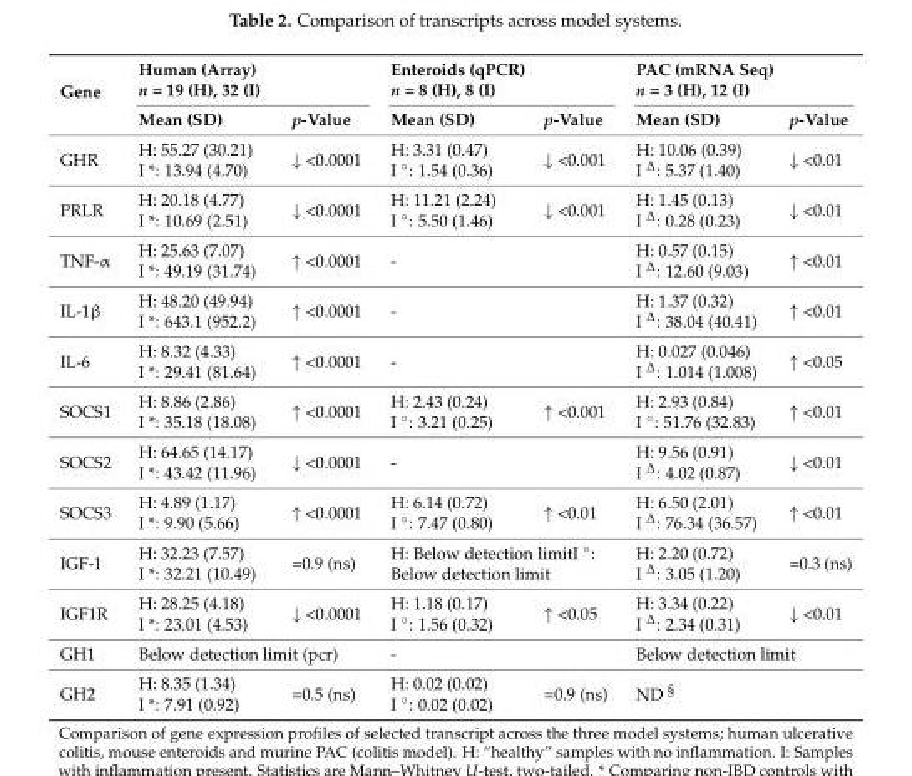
<table><thead><tr><td rowspan="2">Gene</td><td colspan="2">Human (Array) n = 19 (H), 32 (I)</td><td colspan="2">Enteroids (qPCR) n = 8 (H), 8 (I)</td><td colspan="2">PAC (mRNA Seq) n = 3 (H), 12 (I)</td></tr><tr><td>Mean (SD)</td><td>p-Value</td><td>Mean (SD)</td><td>p-Value</td><td>Mean (SD)</td><td>p-Value</td></tr></thead><tbody><tr><td>GHR</td><td>H: 55.27 (30.21) I *: 13.94 (4.70)</td><td>↓ &lt;0.0001</td><td>H: 3.31 (0.47) I ◦: 1.54 (0.36)</td><td>↓ &lt;0.001</td><td>H: 10.06 (0.39) I ∆: 5.37 (1.40)</td><td>↓ &lt;0.01</td></tr><tr><td>PRLR</td><td>H: 20.18 (4.77) I *: 10.69 (2.51)</td><td>↓ &lt;0.0001</td><td>H: 11.21 (2.24) I ◦: 5.50 (1.46)</td><td>↓ &lt;0.001</td><td>H: 1.45 (0.13) I ∆: 0.28 (0.23)</td><td>↓ &lt;0.01</td></tr><tr><td>TNF-α</td><td>H: 25.63 (7.07) I *: 49.19 (31.74)</td><td>↑ &lt;0.0001</td><td colspan="2">-</td><td>H: 0.57 (0.15) I ∆: 12.60 (9.03)</td><td>↑ &lt;0.01</td></tr><tr><td>IL-1β</td><td>H: 48.20 (49.94) I *: 643.1 (952.2)</td><td>↑ &lt;0.0001</td><td colspan="2">-</td><td>H: 1.37 (0.32) I ∆: 38.04 (40.41)</td><td>↑ &lt;0.01</td></tr><tr><td>IL-6</td><td>H: 8.32 (4.33) I *: 29.41 (81.64)</td><td>↑ &lt;0.0001</td><td colspan="2">-</td><td>H: 0.027 (0.046) I ∆: 1.014 (1.008)</td><td>↑ &lt;0.05</td></tr><tr><td>SOCS1</td><td>H: 8.86 (2.86) I *: 35.18 (18.08)</td><td>↑ &lt;0.0001</td><td>H: 2.43 (0.24) I ◦: 3.21 (0.25)</td><td>↑ &lt;0.001</td><td>H: 2.93 (0.84) I ◦: 51.76 (32.83)</td><td>↑ &lt;0.01</td></tr><tr><td>SOCS2</td><td>H: 64.65 (14.17) I *: 43.42 (11.96)</td><td>↓ &lt;0.0001</td><td colspan="2">-</td><td>H: 9.56 (0.91) I ∆: 4.02 (0.87)</td><td>↓ &lt;0.01</td></tr><tr><td>SOCS3</td><td>H: 4.89 (1.17) I *: 9.90 (5.66)</td><td>↑ &lt;0.0001</td><td>H: 6.14 (0.72) I ◦: 7.47 (0.80)</td><td>↑ &lt;0.01</td><td>H: 6.50 (2.01) I ∆: 76.34 (36.57)</td><td>↑ &lt;0.01</td></tr><tr><td>IGF-1</td><td>H: 32.23 (7.57) I *: 32.21 (10.49)</td><td>=0.9 (ns)</td><td colspan="2">H: Below detection limitI ◦: Below detection limit</td><td>H: 2.20 (0.72) I ∆: 3.05 (1.20)</td><td>=0.3 (ns)</td></tr><tr><td>IGF1R</td><td>H: 28.25 (4.18) I *: 23.01 (4.53)</td><td>↓ &lt;0.0001</td><td>H: 1.18 (0.17) I ◦: 1.56 (0.32)</td><td>↑ &lt;0.05</td><td>H: 3.34 (0.22) I ∆: 2.34 (0.31)</td><td>↓ &lt;0.01</td></tr><tr><td>GH1</td><td colspan="2">Below detection limit (pcr)</td><td>-</td><td></td><td colspan="2">Below detection limit</td></tr><tr><td>GH2</td><td>H: 8.35 (1.34) I *: 7.91 (0.92)</td><td>=0.5 (ns)</td><td>H: 0.02 (0.02) I ◦: 0.02 (0.02)</td><td>=0.9 (ns)</td><td>ND <sup>§</sup></td><td></td></tr></tbody></table>